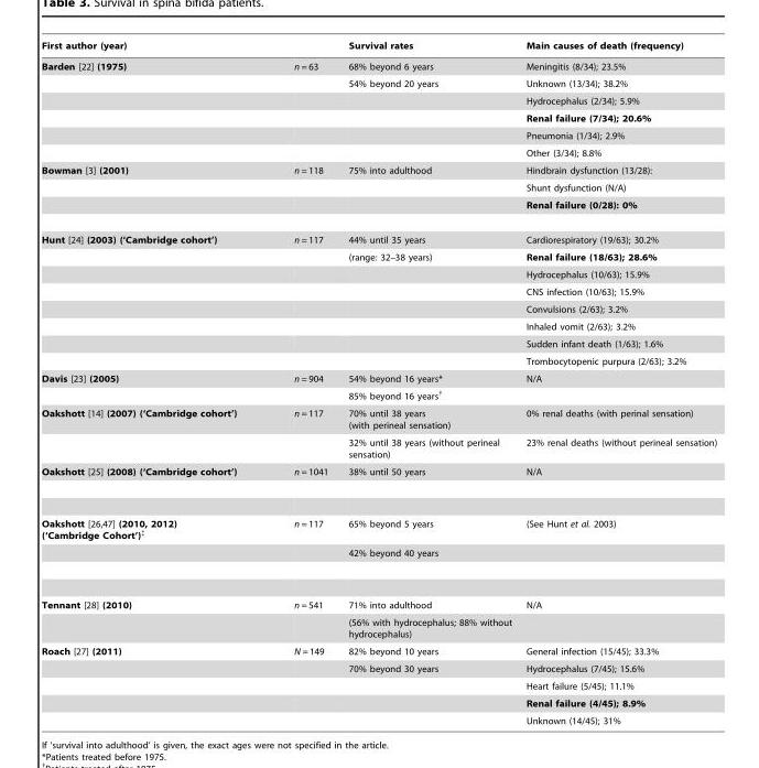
<table><thead><tr><td>First author (year)</td><td></td><td>Survival rates</td><td>Main causes of death (frequency)</td></tr></thead><tbody><tr><td rowspan="6">Barden [22] (1975)</td><td>n = 63</td><td>68% beyond 6 years</td><td>Meningitis (8/34); 23.5%</td></tr><tr><td></td><td>54% beyond 20 years</td><td>Unknown (13/34); 38.2%</td></tr><tr><td></td><td></td><td>Hydrocephalus (2/34); 5.9%</td></tr><tr><td></td><td></td><td>Renal failure (7/34); 20.6%</td></tr><tr><td></td><td></td><td>Pneumonia (1/34); 2.9%</td></tr><tr><td></td><td></td><td>Other (3/34); 8.8%</td></tr><tr><td rowspan="3">Bowman [3] (2001)</td><td>n = 118</td><td>75% into adulthood</td><td>Hindbrain dysfunction (13/28):</td></tr><tr><td></td><td></td><td>Shunt dysfunction (N/A)</td></tr><tr><td></td><td></td><td>Renal failure (0/28): 0%</td></tr><tr><td rowspan="8">Hunt [24] (2003) (‘Cambridge cohort’)</td><td>n = 117</td><td>44% until 35 years</td><td>Cardiorespiratory (19/63); 30.2%</td></tr><tr><td></td><td>(range: 32–38 years)</td><td>Renal failure (18/63); 28.6%</td></tr><tr><td></td><td></td><td>Hydrocephalus (10/63); 15.9%</td></tr><tr><td></td><td></td><td>CNS infection (10/63); 15.9%</td></tr><tr><td></td><td></td><td>Convulsions (2/63); 3.2%</td></tr><tr><td></td><td></td><td>Inhaled vomit (2/63); 3.2%</td></tr><tr><td></td><td></td><td>Sudden infant death (1/63); 1.6%</td></tr><tr><td></td><td></td><td>Trombocytopenic purpura (2/63); 3.2%</td></tr><tr><td rowspan="2">Davis [23] (2005)</td><td>n = 904</td><td>54% beyond 16 years*</td><td>N/A</td></tr><tr><td></td><td>85% beyond 16 years†</td><td></td></tr><tr><td rowspan="2">Oakshott [14] (2007) (‘Cambridge cohort’)</td><td>n = 117</td><td>70% until 38 years (with perineal sensation)</td><td>0% renal deaths (with perinal sensation)</td></tr><tr><td></td><td>32% until 38 years (without perineal sensation)</td><td>23% renal deaths (without perineal sensation)</td></tr><tr><td>Oakshott [25] (2008) (‘Cambridge cohort’)</td><td>n = 1041</td><td>38% until 50 years</td><td>N/A</td></tr><tr><td rowspan="2">Oakshott [26,47] (2010, 2012) (‘Cambridge Cohort’){</td><td>n = 117</td><td>65% beyond 5 years</td><td>(See Hunt et al. 2003)</td></tr><tr><td></td><td>42% beyond 40 years</td><td></td></tr><tr><td rowspan="2">Tennant [28] (2010)</td><td>n = 541</td><td>71% into adulthood</td><td>N/A</td></tr><tr><td></td><td>(56% with hydrocephalus; 88% without hydrocephalus)</td><td></td></tr><tr><td rowspan="5">Roach [27] (2011)</td><td>N = 149</td><td>82% beyond 10 years</td><td>General infection (15/45); 33.3%</td></tr><tr><td></td><td>70% beyond 30 years</td><td>Hydrocephalus (7/45); 15.6%</td></tr><tr><td></td><td></td><td>Heart failure (5/45); 11.1%</td></tr><tr><td></td><td></td><td>Renal failure (4/45); 8.9%</td></tr><tr><td></td><td></td><td>Unknown (14/45); 31%</td></tr></tbody></table>